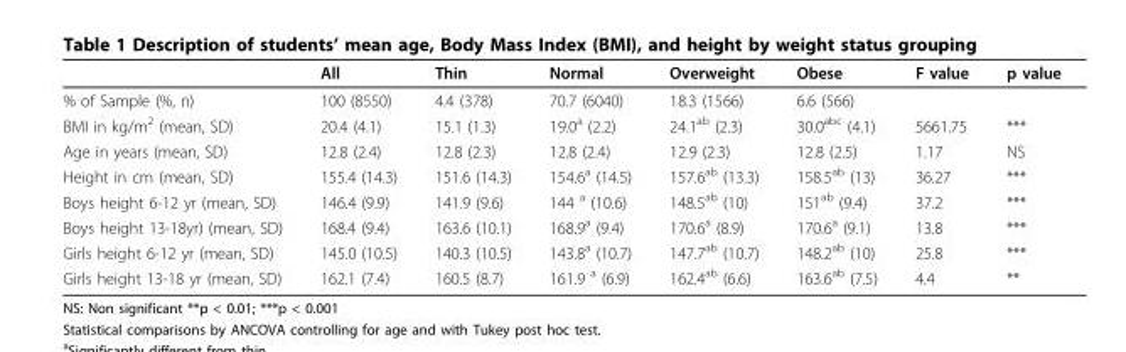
<table><thead><tr><td></td><td>All</td><td>Thin</td><td>Normal</td><td>Overweight</td><td>Obese</td><td>F value</td><td>p value</td></tr></thead><tbody><tr><td>% of Sample (%, n)</td><td>100 (8550)</td><td>4.4 (378)</td><td>70.7 (6040)</td><td>18.3 (1566)</td><td>6.6 (566)</td><td></td><td></td></tr><tr><td>BMI in kg/m<sup>2</sup> (mean, SD)</td><td>20.4 (4.1)</td><td>15.1 (1.3)</td><td>19.0<sup>a</sup> (2.2)</td><td>24.1<sup>ab</sup> (2.3)</td><td>30.0<sup>abc</sup> (4.1)</td><td>5661.75</td><td>***</td></tr><tr><td>Age in years (mean, SD)</td><td>12.8 (2.4)</td><td>12.8 (2.3)</td><td>12.8 (2.4)</td><td>12.9 (2.3)</td><td>12.8 (2.5)</td><td>1.17</td><td>NS</td></tr><tr><td>Height in cm (mean, SD)</td><td>155.4 (14.3)</td><td>151.6 (14.3)</td><td>154.6<sup>a</sup> (14.5)</td><td>157.6<sup>ab</sup> (13.3)</td><td>158.5<sup>ab</sup> (13)</td><td>36.27</td><td>***</td></tr><tr><td>Boys height 6-12 yr (mean, SD)</td><td>146.4 (9.9)</td><td>141.9 (9.6)</td><td>144 <sup>a</sup> (10.6)</td><td>148.5<sup>ab</sup> (10)</td><td>151<sup>ab</sup> (9.4)</td><td>37.2</td><td>***</td></tr><tr><td>Boys height 13-18yr) (mean, SD)</td><td>168.4 (9.4)</td><td>163.6 (10.1)</td><td>168.9<sup>a</sup> (9.4)</td><td>170.6<sup>a</sup> (8.9)</td><td>170.6<sup>a</sup> (9.1)</td><td>13.8</td><td>***</td></tr><tr><td>Girls height 6-12 yr (mean, SD)</td><td>145.0 (10.5)</td><td>140.3 (10.5)</td><td>143.8<sup>a</sup> (10.7)</td><td>147.7<sup>ab</sup> (10.7)</td><td>148.2<sup>ab</sup> (10)</td><td>25.8</td><td>***</td></tr><tr><td>Girls height 13-18 yr (mean, SD)</td><td>162.1 (7.4)</td><td>160.5 (8.7)</td><td>161.9 <sup>a</sup> (6.9)</td><td>162.4<sup>ab</sup> (6.6)</td><td>163.6<sup>ab</sup> (7.5)</td><td>4.4</td><td>**</td></tr></tbody></table>